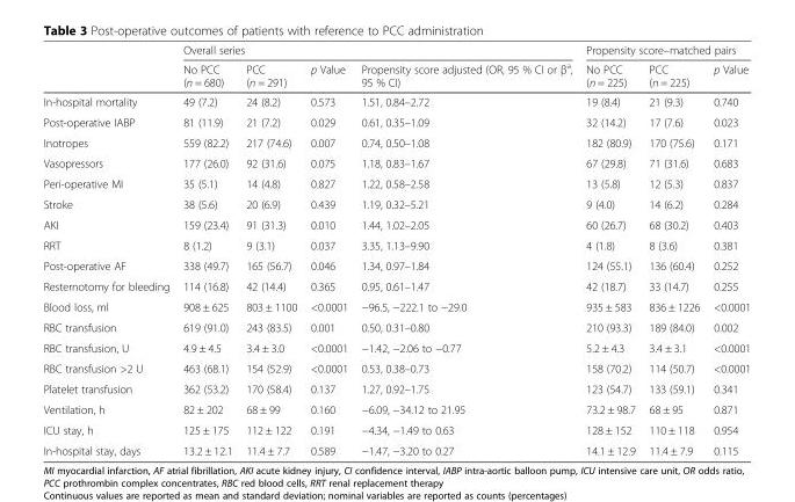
<table><thead><tr><td rowspan="2"></td><td colspan="4">Overall series</td><td colspan="3">Propensity score–matched pairs</td></tr><tr><td>No PCC (n = 680)</td><td>PCC (n = 291)</td><td>p Value</td><td>Propensity score adjusted (OR, 95 % CI or β<sup>a</sup>, 95 % CI)</td><td>No PCC (n = 225)</td><td>PCC (n = 225)</td><td>p Value</td></tr></thead><tbody><tr><td>In-hospital mortality</td><td>49 (7.2)</td><td>24 (8.2)</td><td>0.573</td><td>1.51, 0.84–2.72</td><td>19 (8.4)</td><td>21 (9.3)</td><td>0.740</td></tr><tr><td>Post-operative IABP</td><td>81 (11.9)</td><td>21 (7.2)</td><td>0.029</td><td>0.61, 0.35–1.09</td><td>32 (14.2)</td><td>17 (7.6)</td><td>0.023</td></tr><tr><td>Inotropes</td><td>559 (82.2)</td><td>217 (74.6)</td><td>0.007</td><td>0.74, 0.50–1.08</td><td>182 (80.9)</td><td>170 (75.6)</td><td>0.171</td></tr><tr><td>Vasopressors</td><td>177 (26.0)</td><td>92 (31.6)</td><td>0.075</td><td>1.18, 0.83–1.67</td><td>67 (29.8)</td><td>71 (31.6)</td><td>0.683</td></tr><tr><td>Peri-operative MI</td><td>35 (5.1)</td><td>14 (4.8)</td><td>0.827</td><td>1.22, 0.58–2.58</td><td>13 (5.8)</td><td>12 (5.3)</td><td>0.837</td></tr><tr><td>Stroke</td><td>38 (5.6)</td><td>20 (6.9)</td><td>0.439</td><td>1.19, 0.32–5.21</td><td>9 (4.0)</td><td>14 (6.2)</td><td>0.284</td></tr><tr><td>AKI</td><td>159 (23.4)</td><td>91 (31.3)</td><td>0.010</td><td>1.44, 1.02–2.05</td><td>60 (26.7)</td><td>68 (30.2)</td><td>0.403</td></tr><tr><td>RRT</td><td>8 (1.2)</td><td>9 (3.1)</td><td>0.037</td><td>3.35, 1.13–9.90</td><td>4 (1.8)</td><td>8 (3.6)</td><td>0.381</td></tr><tr><td>Post-operative AF</td><td>338 (49.7)</td><td>165 (56.7)</td><td>0.046</td><td>1.34, 0.97–1.84</td><td>124 (55.1)</td><td>136 (60.4)</td><td>0.252</td></tr><tr><td>Resternotomy for bleeding</td><td>114 (16.8)</td><td>42 (14.4)</td><td>0.365</td><td>0.95, 0.61–1.47</td><td>42 (18.7)</td><td>33 (14.7)</td><td>0.255</td></tr><tr><td>Blood loss, ml</td><td>908 ± 625</td><td>803 ± 1100</td><td>&lt;0.0001</td><td>−96.5, −222.1 to −29.0</td><td>935 ± 583</td><td>836 ± 1226</td><td>&lt;0.0001</td></tr><tr><td>RBC transfusion</td><td>619 (91.0)</td><td>243 (83.5)</td><td>0.001</td><td>0.50, 0.31–0.80</td><td>210 (93.3)</td><td>189 (84.0)</td><td>0.002</td></tr><tr><td>RBC transfusion, U</td><td>4.9 ± 4.5</td><td>3.4 ± 3.0</td><td>&lt;0.0001</td><td>−1.42, −2.06 to −0.77</td><td>5.2 ± 4.3</td><td>3.4 ± 3.1</td><td>&lt;0.0001</td></tr><tr><td>RBC transfusion &gt;2 U</td><td>463 (68.1)</td><td>154 (52.9)</td><td>&lt;0.0001</td><td>0.53, 0.38–0.73</td><td>158 (70.2)</td><td>114 (50.7)</td><td>&lt;0.0001</td></tr><tr><td>Platelet transfusion</td><td>362 (53.2)</td><td>170 (58.4)</td><td>0.137</td><td>1.27, 0.92–1.75</td><td>123 (54.7)</td><td>133 (59.1)</td><td>0.341</td></tr><tr><td>Ventilation, h</td><td>82 ± 202</td><td>68 ± 99</td><td>0.160</td><td>−6.09, −34.12 to 21.95</td><td>73.2 ± 98.7</td><td>68 ± 95</td><td>0.871</td></tr><tr><td>ICU stay, h</td><td>125 ± 175</td><td>112 ± 122</td><td>0.191</td><td>−4.34, −1.49 to 0.63</td><td>128 ± 152</td><td>110 ± 118</td><td>0.954</td></tr><tr><td>In-hospital stay, days</td><td>13.2 ± 12.1</td><td>11.4 ± 7.7</td><td>0.589</td><td>−1.47, −3.20 to 0.27</td><td>14.1 ± 12.9</td><td>11.4 ± 7.9</td><td>0.115</td></tr></tbody></table>